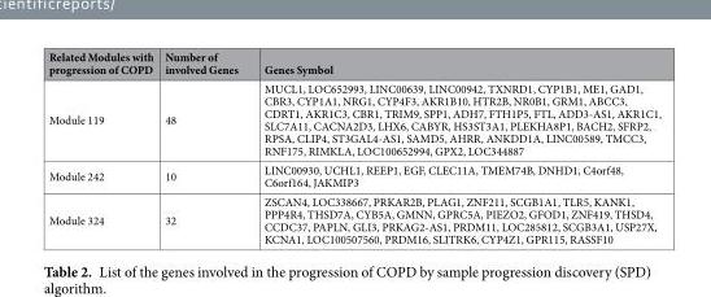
<table><thead><tr><td>Related Modules with progression of COPD</td><td>Number of involved Genes</td><td>Genes Symbol</td></tr></thead><tbody><tr><td>Module 119</td><td>48</td><td>MUCL1, LOC652993, LINC00639, LINC00942, TXNRD1, CYP1B1, ME1, GAD1, CBR3, CYP1A1, NRG1, CYP4F3, AKR1B10, HTR2B, NR0B1, GRM1, ABCC3, CDRT1, AKR1C3, CBR1, TRIM9, SPP1, ADH7, FTH1P5, FTL, ADD3-AS1, AKR1C1, SLC7A11, CACNA2D3, LHX6, CABYR, HS3ST3A1, PLEKHA8P1, BACH2, SFRP2, RPSA, CLIP4, ST3GAL4-AS1, SAMD5, AHRR, ANKDD1A, LINC00589, TMCC3, RNF175, RIMKLA, LOC100652994, GPX2, LOC344887</td></tr><tr><td>Module 242</td><td>10</td><td>LINC00930, UCHL1, REEP1, EGF, CLEC11A, TMEM74B, DNHD1, C4orf48, C6orf164, JAKMIP3</td></tr><tr><td>Module 324</td><td>32</td><td>ZSCAN4, LOC338667, PRKAR2B, PLAG1, ZNF211, SCGB1A1, TLR5, KANK1, PPP4R4, THSD7A, CYB5A, GMNN, GPRC5A, PIEZO2, GFOD1, ZNF419, THSD4, CCDC37, PAPLN, GLI3, PRKAG2-AS1, PRDM11, LOC285812, SCGB3A1, USP27X, KCNA1, LOC100507560, PRDM16, SLITRK6, CYP4Z1, GPR115, RASSF10</td></tr></tbody></table>